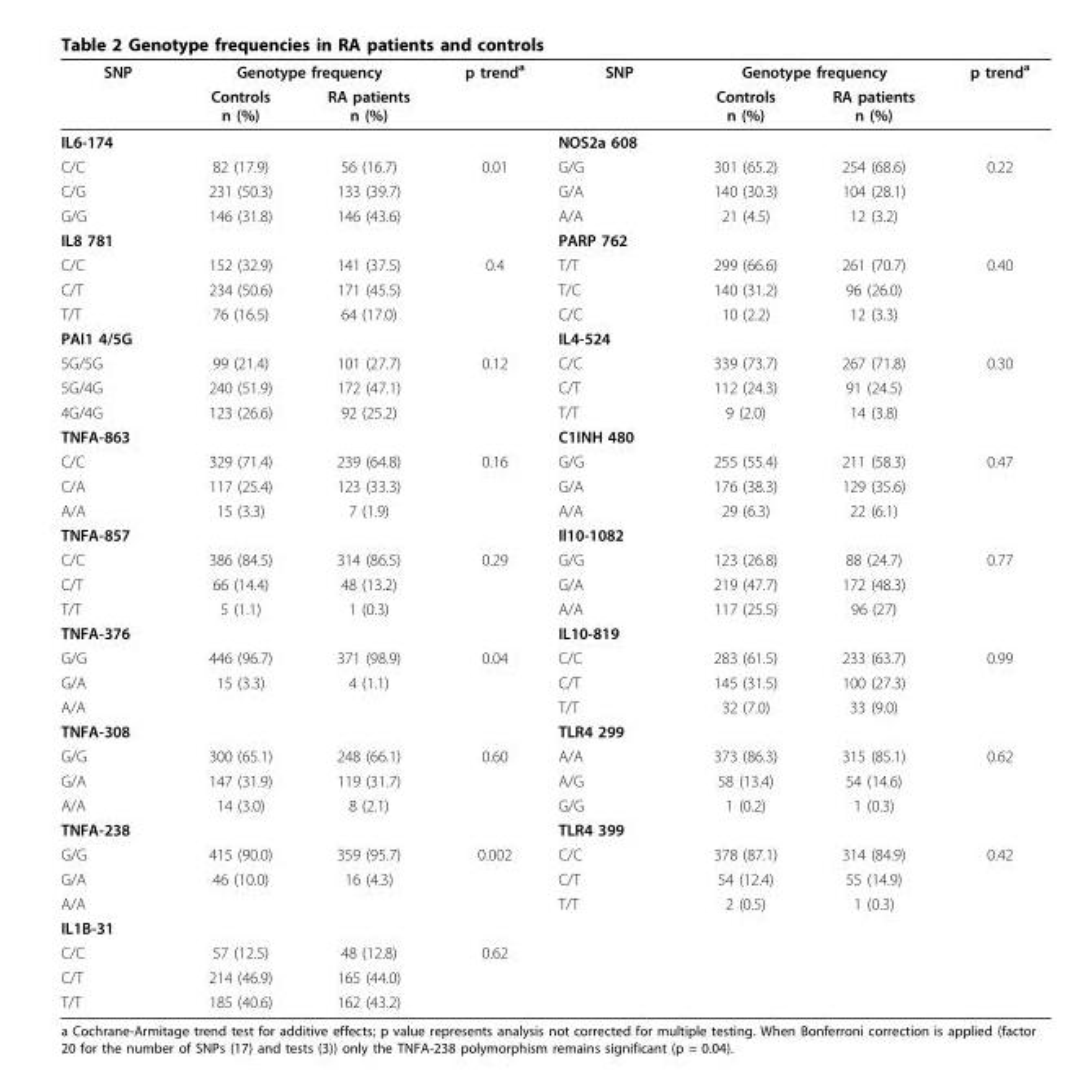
<table><thead><tr><td rowspan="2">SNP</td><td colspan="2">Genotype frequency</td><td rowspan="2">p trend<sup>a</sup></td><td rowspan="2">SNP</td><td colspan="2">Genotype frequency</td><td rowspan="2">p trend<sup>a</sup></td></tr><tr><td>Controls n (%)</td><td>RA patients n (%)</td><td>Controls n (%)</td><td>RA patients n (%)</td></tr></thead><tbody><tr><td>IL6-174</td><td></td><td></td><td></td><td>NOS2a 608</td><td></td><td></td><td></td></tr><tr><td>C/C</td><td>82 (17.9)</td><td>56 (16.7)</td><td>0.01</td><td>G/G</td><td>301 (65.2)</td><td>254 (68.6)</td><td>0.22</td></tr><tr><td>C/G</td><td>231 (50.3)</td><td>133 (39.7)</td><td></td><td>G/A</td><td>140 (30.3)</td><td>104 (28.1)</td><td></td></tr><tr><td>G/G</td><td>146 (31.8)</td><td>146 (43.6)</td><td></td><td>A/A</td><td>21 (4.5)</td><td>12 (3.2)</td><td></td></tr><tr><td>IL8 781</td><td></td><td></td><td></td><td>PARP 762</td><td></td><td></td><td></td></tr><tr><td>C/C</td><td>152 (32.9)</td><td>141 (37.5)</td><td>0.4</td><td>T/T</td><td>299 (66.6)</td><td>261 (70.7)</td><td>0.40</td></tr><tr><td>C/T</td><td>234 (50.6)</td><td>171 (45.5)</td><td></td><td>T/C</td><td>140 (31.2)</td><td>96 (26.0)</td><td></td></tr><tr><td>T/T</td><td>76 (16.5)</td><td>64 (17.0)</td><td></td><td>C/C</td><td>10 (2.2)</td><td>12 (3.3)</td><td></td></tr><tr><td>PAI1 4/5G</td><td></td><td></td><td></td><td>IL4-524</td><td></td><td></td><td></td></tr><tr><td>5G/5G</td><td>99 (21.4)</td><td>101 (27.7)</td><td>0.12</td><td>C/C</td><td>339 (73.7)</td><td>267 (71.8)</td><td>0.30</td></tr><tr><td>5G/4G</td><td>240 (51.9)</td><td>172 (47.1)</td><td></td><td>C/T</td><td>112 (24.3)</td><td>91 (24.5)</td><td></td></tr><tr><td>4G/4G</td><td>123 (26.6)</td><td>92 (25.2)</td><td></td><td>T/T</td><td>9 (2.0)</td><td>14 (3.8)</td><td></td></tr><tr><td>TNFA-863</td><td></td><td></td><td></td><td>C1INH 480</td><td></td><td></td><td></td></tr><tr><td>C/C</td><td>329 (71.4)</td><td>239 (64.8)</td><td>0.16</td><td>G/G</td><td>255 (55.4)</td><td>211 (58.3)</td><td>0.47</td></tr><tr><td>C/A</td><td>117 (25.4)</td><td>123 (33.3)</td><td></td><td>G/A</td><td>176 (38.3)</td><td>129 (35.6)</td><td></td></tr><tr><td>A/A</td><td>15 (3.3)</td><td>7 (1.9)</td><td></td><td>A/A</td><td>29 (6.3)</td><td>22 (6.1)</td><td></td></tr><tr><td>TNFA-857</td><td></td><td></td><td></td><td>Il10-1082</td><td></td><td></td><td></td></tr><tr><td>C/C</td><td>386 (84.5)</td><td>314 (86.5)</td><td>0.29</td><td>G/G</td><td>123 (26.8)</td><td>88 (24.7)</td><td>0.77</td></tr><tr><td>C/T</td><td>66 (14.4)</td><td>48 (13.2)</td><td></td><td>G/A</td><td>219 (47.7)</td><td>172 (48.3)</td><td></td></tr><tr><td>T/T</td><td>5 (1.1)</td><td>1 (0.3)</td><td></td><td>A/A</td><td>117 (25.5)</td><td>96 (27)</td><td></td></tr><tr><td>TNFA-376</td><td></td><td></td><td></td><td>IL10-819</td><td></td><td></td><td></td></tr><tr><td>G/G</td><td>446 (96.7)</td><td>371 (98.9)</td><td>0.04</td><td>C/C</td><td>283 (61.5)</td><td>233 (63.7)</td><td>0.99</td></tr><tr><td>G/A</td><td>15 (3.3)</td><td>4 (1.1)</td><td></td><td>C/T</td><td>145 (31.5)</td><td>100 (27.3)</td><td></td></tr><tr><td>A/A</td><td></td><td></td><td></td><td>T/T</td><td>32 (7.0)</td><td>33 (9.0)</td><td></td></tr><tr><td>TNFA-308</td><td></td><td></td><td></td><td>TLR4 299</td><td></td><td></td><td></td></tr><tr><td>G/G</td><td>300 (65.1)</td><td>248 (66.1)</td><td>0.60</td><td>A/A</td><td>373 (86.3)</td><td>315 (85.1)</td><td>0.62</td></tr><tr><td>G/A</td><td>147 (31.9)</td><td>119 (31.7)</td><td></td><td>A/G</td><td>58 (13.4)</td><td>54 (14.6)</td><td></td></tr><tr><td>A/A</td><td>14 (3.0)</td><td>8 (2.1)</td><td></td><td>G/G</td><td>1 (0.2)</td><td>1 (0.3)</td><td></td></tr><tr><td>TNFA-238</td><td></td><td></td><td></td><td>TLR4 399</td><td></td><td></td><td></td></tr><tr><td>G/G</td><td>415 (90.0)</td><td>359 (95.7)</td><td>0.002</td><td>C/C</td><td>378 (87.1)</td><td>314 (84.9)</td><td>0.42</td></tr><tr><td>G/A</td><td>46 (10.0)</td><td>16 (4.3)</td><td></td><td>C/T</td><td>54 (12.4)</td><td>55 (14.9)</td><td></td></tr><tr><td>A/A</td><td></td><td></td><td></td><td>T/T</td><td>2 (0.5)</td><td>1 (0.3)</td><td></td></tr><tr><td colspan="8">IL1B-31</td></tr><tr><td>C/C</td><td>57 (12.5)</td><td>48 (12.8)</td><td>0.62</td><td></td><td></td><td></td><td></td></tr><tr><td>C/T</td><td>214 (46.9)</td><td>165 (44.0)</td><td></td><td></td><td></td><td></td><td></td></tr><tr><td>T/T</td><td>185 (40.6)</td><td>162 (43.2)</td><td></td><td></td><td></td><td></td><td></td></tr></tbody></table>